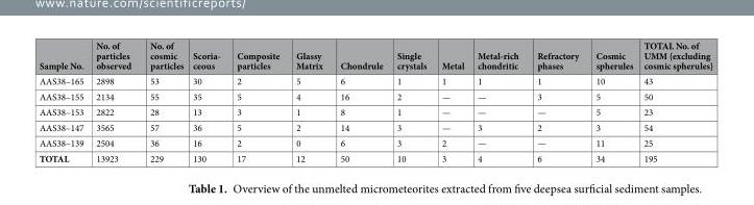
<table><thead><tr><td>Sample No.</td><td>No. of particles observed</td><td>No. of cosmic particles</td><td>Scoria- ceous</td><td>Composite particles</td><td>Glassy Matrix</td><td>Chondrule</td><td>Single crystals</td><td>Metal</td><td>Metal-rich chondritic</td><td>Refractory phases</td><td>Cosmic spherules</td><td>TOTAL No. of UMM {excluding cosmic spherules}</td></tr></thead><tbody><tr><td>AAS38–165</td><td>2898</td><td>53</td><td>30</td><td>2</td><td>5</td><td>6</td><td>1</td><td>1</td><td>1</td><td>1</td><td>10</td><td>43</td></tr><tr><td>AAS38–155</td><td>2134</td><td>55</td><td>35</td><td>5</td><td>4</td><td>16</td><td>2</td><td>—</td><td>—</td><td>3</td><td>5</td><td>50</td></tr><tr><td>AAS38–153</td><td>2822</td><td>28</td><td>13</td><td>3</td><td>1</td><td>8</td><td>1</td><td>—</td><td>—</td><td>—</td><td>5</td><td>23</td></tr><tr><td>AAS38–147</td><td>3565</td><td>57</td><td>36</td><td>5</td><td>2</td><td>14</td><td>3</td><td>—</td><td>3</td><td>2</td><td>3</td><td>54</td></tr><tr><td>AAS38–139</td><td>2504</td><td>36</td><td>16</td><td>2</td><td>0</td><td>6</td><td>3</td><td>2</td><td>—</td><td>—</td><td>11</td><td>25</td></tr><tr><td>TOTAL</td><td>13923</td><td>229</td><td>130</td><td>17</td><td>12</td><td>50</td><td>10</td><td>3</td><td>4</td><td>6</td><td>34</td><td>195</td></tr></tbody></table>